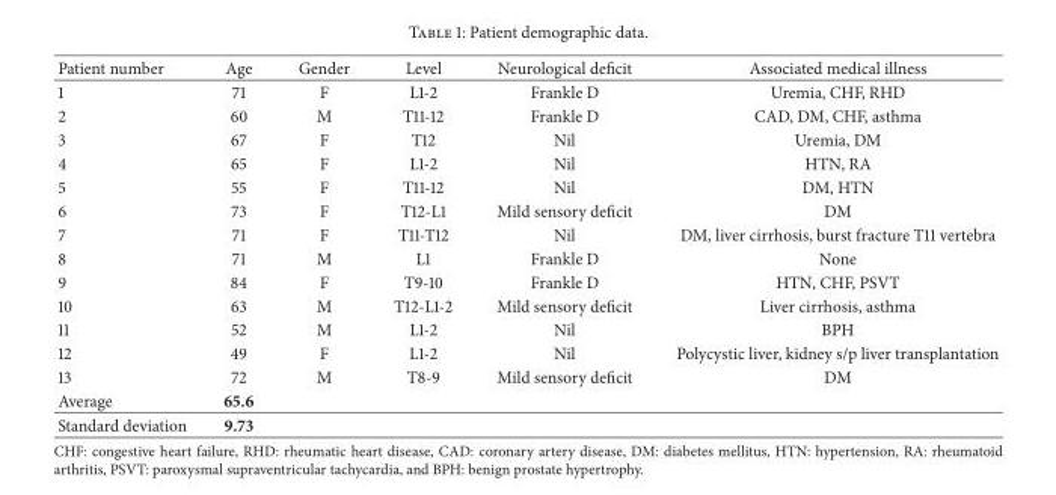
<table><thead><tr><td>Patient number</td><td>Age</td><td>Gender</td><td>Level</td><td>Neurological deficit</td><td>Associated medical illness</td></tr></thead><tbody><tr><td>1</td><td>71</td><td>F</td><td>L1-2</td><td>Frankle D</td><td>Uremia, CHF, RHD</td></tr><tr><td>2</td><td>60</td><td>M</td><td>T11-12</td><td>Frankle D</td><td>CAD, DM, CHF, asthma</td></tr><tr><td>3</td><td>67</td><td>F</td><td>T12</td><td>Nil</td><td>Uremia, DM</td></tr><tr><td>4</td><td>65</td><td>F</td><td>L1-2</td><td>Nil</td><td>HTN, RA</td></tr><tr><td>5</td><td>55</td><td>F</td><td>T11-12</td><td>Nil</td><td>DM, HTN</td></tr><tr><td>6</td><td>73</td><td>F</td><td>T12-L1</td><td>Mild sensory deficit</td><td>DM</td></tr><tr><td>7</td><td>71</td><td>F</td><td>T11-T12</td><td>Nil</td><td>DM, liver cirrhosis, burst fracture T11 vertebra</td></tr><tr><td>8</td><td>71</td><td>M</td><td>L1</td><td>Frankle D</td><td>None</td></tr><tr><td>9</td><td>84</td><td>F</td><td>T9-10</td><td>Frankle D</td><td>HTN, CHF, PSVT</td></tr><tr><td>10</td><td>63</td><td>M</td><td>T12-L1-2</td><td>Mild sensory deficit</td><td>Liver cirrhosis, asthma</td></tr><tr><td>11</td><td>52</td><td>M</td><td>L1-2</td><td>Nil</td><td>BPH</td></tr><tr><td>12</td><td>49</td><td>F</td><td>L1-2</td><td>Nil</td><td>Polycystic liver, kidney s/p liver transplantation</td></tr><tr><td>13</td><td>72</td><td>M</td><td>T8-9</td><td>Mild sensory deficit</td><td>DM</td></tr><tr><td>Average</td><td>65.6</td><td></td><td></td><td></td><td></td></tr><tr><td>Standard deviation</td><td>9.73</td><td></td><td></td><td></td><td></td></tr></tbody></table>